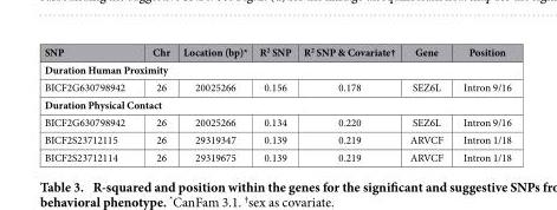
<table><thead><tr><td>SNP</td><td>Chr</td><td>Location (bp)*</td><td>R<sup>2</sup> SNP</td><td>R<sup>2</sup> SNP &amp; Covariate†</td><td>Gene</td><td>Position</td></tr></thead><tbody><tr><td colspan="7">Duration Human Proximity</td></tr><tr><td>BICF2G630798942</td><td>26</td><td>20025266</td><td>0.156</td><td>0.178</td><td>SEZ6L</td><td>Intron 9/16</td></tr><tr><td colspan="7">Duration Physical Contact</td></tr><tr><td>BICF2G630798942</td><td>26</td><td>20025266</td><td>0.134</td><td>0.220</td><td>SEZ6L</td><td>Intron 9/16</td></tr><tr><td>BICF2S23712115</td><td>26</td><td>29319347</td><td>0.139</td><td>0.219</td><td>ARVCF</td><td>Intron 1/18</td></tr><tr><td>BICF2S23712114</td><td>26</td><td>29319675</td><td>0.139</td><td>0.219</td><td>ARVCF</td><td>Intron 1/18</td></tr></tbody></table>